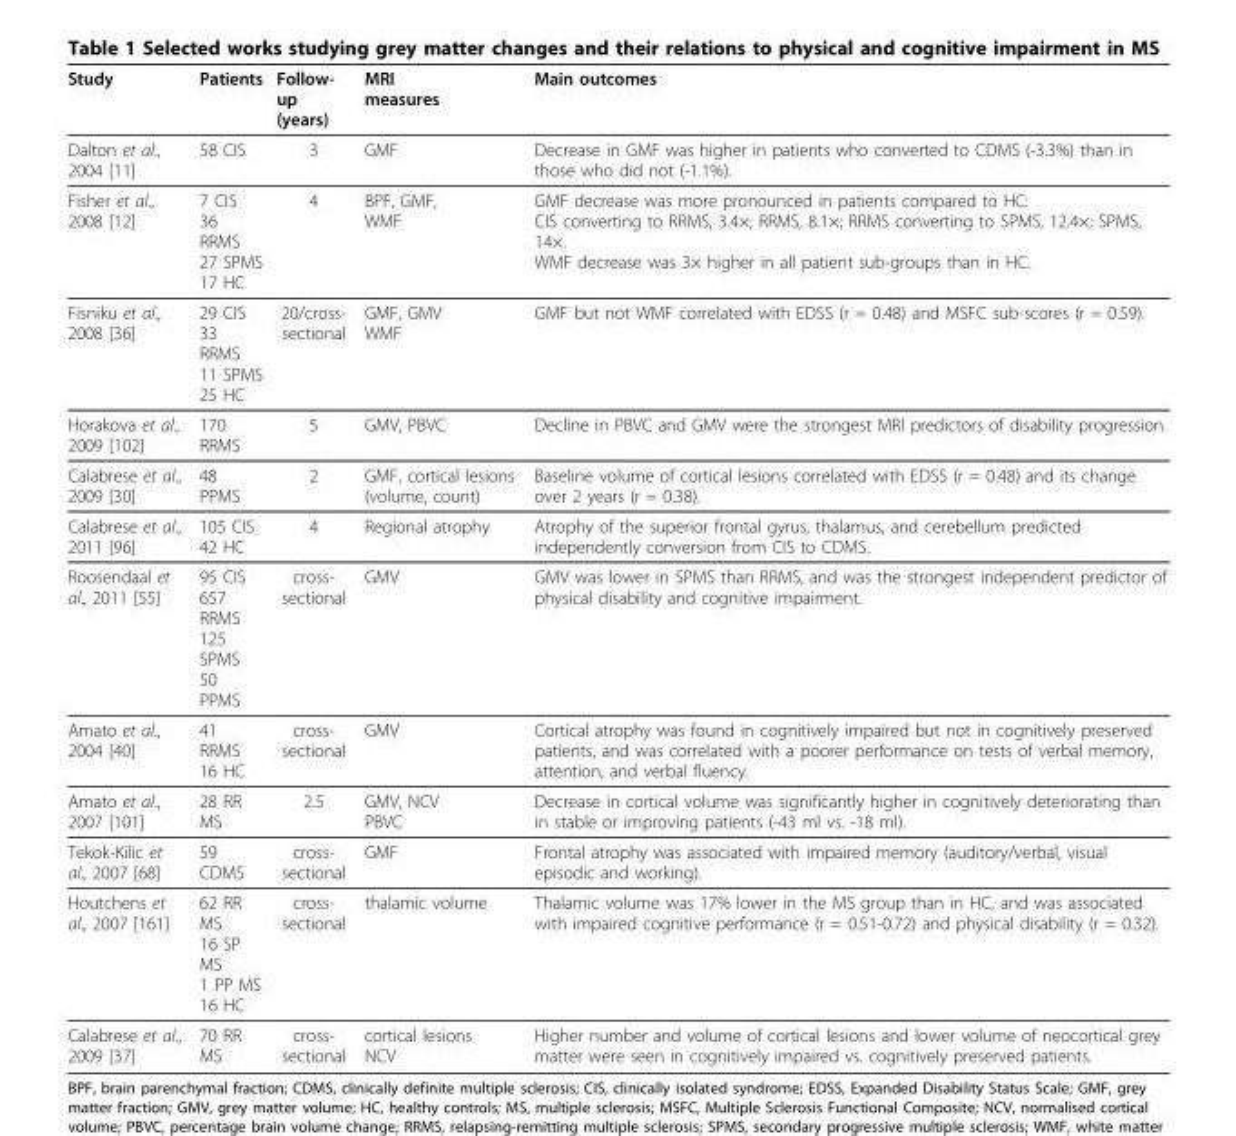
<table><thead><tr><td>Study</td><td>Patients</td><td>Follow- up (years)</td><td>MRI measures</td><td>Main outcomes</td></tr></thead><tbody><tr><td>Dalton et al., 2004 [11]</td><td>58 CIS</td><td>3</td><td>GMF</td><td>Decrease in GMF was higher in patients who converted to CDMS (-3.3%) than in those who did not (-1.1%).</td></tr><tr><td>Fisher et al., 2008 [12]</td><td>7 CIS 36 RRMS 27 SPMS 17 HC</td><td>4</td><td>BPF, GMF, WMF</td><td>GMF decrease was more pronounced in patients compared to HC: CIS converting to RRMS, 3.4×; RRMS, 8.1×; RRMS converting to SPMS, 12.4×; SPMS, 14×. WMF decrease was 3× higher in all patient sub-groups than in HC.</td></tr><tr><td>Fisniku et al., 2008 [36]</td><td>29 CIS 33 RRMS 11 SPMS 25 HC</td><td>20/cross- sectional</td><td>GMF, GMV WMF</td><td>GMF but not WMF correlated with EDSS (r = 0.48) and MSFC sub-scores (r = 0.59).</td></tr><tr><td>Horakova et al., 2009 [102]</td><td>170 RRMS</td><td>5</td><td>GMV, PBVC</td><td>Decline in PBVC and GMV were the strongest MRI predictors of disability progression.</td></tr><tr><td>Calabrese et al., 2009 [30]</td><td>48 PPMS</td><td>2</td><td>GMF, cortical lesions (volume, count)</td><td>Baseline volume of cortical lesions correlated with EDSS (r = 0.48) and its change over 2 years (r = 0.38).</td></tr><tr><td>Calabrese et al., 2011 [96]</td><td>105 CIS 42 HC</td><td>4</td><td>Regional atrophy</td><td>Atrophy of the superior frontal gyrus, thalamus, and cerebellum predicted independently conversion from CIS to CDMS.</td></tr><tr><td>Roosendaal et al., 2011 [55]</td><td>95 CIS 657 RRMS 125 SPMS 50 PPMS</td><td>cross- sectional</td><td>GMV</td><td>GMV was lower in SPMS than RRMS, and was the strongest independent predictor of physical disability and cognitive impairment.</td></tr><tr><td>Amato et al., 2004 [40]</td><td>41 RRMS 16 HC</td><td>cross- sectional</td><td>GMV</td><td>Cortical atrophy was found in cognitively impaired but not in cognitively preserved patients, and was correlated with a poorer performance on tests of verbal memory, attention, and verbal fluency.</td></tr><tr><td>Amato et al., 2007 [101]</td><td>28 RR MS</td><td>2.5</td><td>GMV, NCV PBVC</td><td>Decrease in cortical volume was significantly higher in cognitively deteriorating than in stable or improving patients (-43 ml vs. -18 ml).</td></tr><tr><td>Tekok-Kilic et al., 2007 [68]</td><td>59 CDMS</td><td>cross- sectional</td><td>GMF</td><td>Frontal atrophy was associated with impaired memory (auditory/verbal, visual episodic and working).</td></tr><tr><td>Houtchens et al., 2007 [161]</td><td>62 RR MS 16 SP MS 1 PP MS 16 HC</td><td>cross- sectional</td><td>thalamic volume</td><td>Thalamic volume was 17% lower in the MS group than in HC, and was associated with impaired cognitive performance (r = 0.51-0.72) and physical disability (r = 0.32).</td></tr><tr><td>Calabrese et al., 2009 [37]</td><td>70 RR MS</td><td>cross- sectional</td><td>cortical lesions NCV</td><td>Higher number and volume of cortical lesions and lower volume of neocortical grey matter were seen in cognitively impaired vs. cognitively preserved patients.</td></tr></tbody></table>